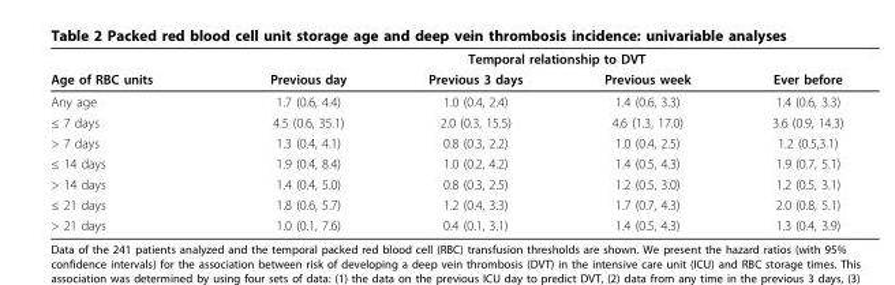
<table><thead><tr><td rowspan="2">Age of RBC units</td><td colspan="4">Temporal relationship to DVT</td></tr><tr><td>Previous day</td><td>Previous 3 days</td><td>Previous week</td><td>Ever before</td></tr></thead><tbody><tr><td>Any age</td><td>1.7 (0.6, 4.4)</td><td>1.0 (0.4, 2.4)</td><td>1.4 (0.6, 3.3)</td><td>1.4 (0.6, 3.3)</td></tr><tr><td>≤ 7 days</td><td>4.5 (0.6, 35.1)</td><td>2.0 (0.3, 15.5)</td><td>4.6 (1.3, 17.0)</td><td>3.6 (0.9, 14.3)</td></tr><tr><td>&gt; 7 days</td><td>1.3 (0.4, 4.1)</td><td>0.8 (0.3, 2.2)</td><td>1.0 (0.4, 2.5)</td><td>1.2 (0.5,3.1)</td></tr><tr><td>≤ 14 days</td><td>1.9 (0.4, 8.4)</td><td>1.0 (0.2, 4.2)</td><td>1.4 (0.5, 4.3)</td><td>1.9 (0.7, 5.1)</td></tr><tr><td>&gt; 14 days</td><td>1.4 (0.4, 5.0)</td><td>0.8 (0.3, 2.5)</td><td>1.2 (0.5, 3.0)</td><td>1.2 (0.5, 3.1)</td></tr><tr><td>≤ 21 days</td><td>1.8 (0.6, 5.7)</td><td>1.2 (0.4, 3.3)</td><td>1.7 (0.7, 4.3)</td><td>2.0 (0.8, 5.1)</td></tr><tr><td>&gt; 21 days</td><td>1.0 (0.1, 7.6)</td><td>0.4 (0.1, 3.1)</td><td>1.4 (0.5, 4.3)</td><td>1.3 (0.4, 3.9)</td></tr></tbody></table>